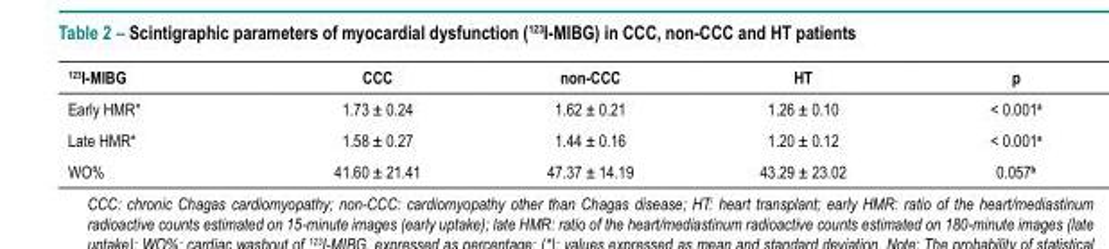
<table><thead><tr><td><sup>123</sup>I-MIBG</td><td>CCC</td><td>non-CCC</td><td>HT</td><td>p</td></tr></thead><tbody><tr><td>Early HMR*</td><td>1.73 ± 0.24</td><td>1.62 ± 0.21</td><td>1.26 ± 0.10</td><td>&lt; 0.001<sup>a</sup></td></tr><tr><td>Late HMR*</td><td>1.58 ± 0.27</td><td>1.44 ± 0.16</td><td>1.20 ± 0.12</td><td>&lt; 0.001<sup>a</sup></td></tr><tr><td>WO%</td><td>41.60 ± 21.41</td><td>47.37 ± 14.19</td><td>43.29 ± 23.02</td><td>0.057<sup>b</sup></td></tr></tbody></table>